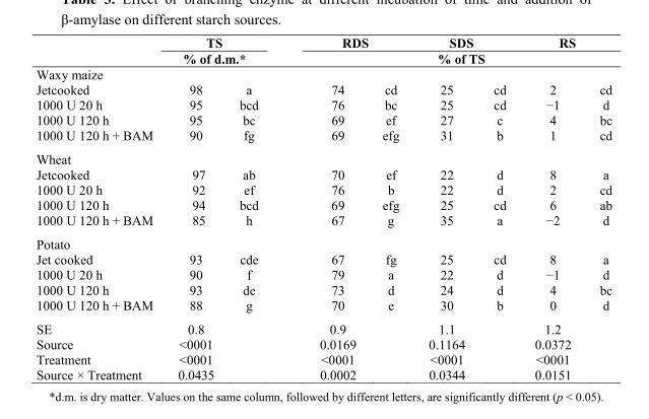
<table><thead><tr><td rowspan="2"></td><td rowspan="2" colspan="2">TS % of d.m.*</td><td colspan="2">RDS</td><td colspan="2">SDS</td><td colspan="2">RS</td></tr><tr><td colspan="6">% of TS</td></tr><tr><td colspan="9">Waxy maize</td></tr><tr><td>Jetcooked</td><td>98</td><td>a</td><td>74</td><td>cd</td><td>25</td><td>cd</td><td>2</td><td>cd</td></tr></thead><tbody><tr><td>1000 U 20 h</td><td>95</td><td>bcd</td><td>76</td><td>bc</td><td>25</td><td>cd</td><td>−1</td><td>d</td></tr><tr><td>1000 U 120 h</td><td>95</td><td>bc</td><td>69</td><td>ef</td><td>27</td><td>c</td><td>4</td><td>bc</td></tr><tr><td>1000 U 120 h + BAM</td><td>90</td><td>fg</td><td>69</td><td>efg</td><td>31</td><td>b</td><td>1</td><td>cd</td></tr><tr><td colspan="9">Wheat</td></tr><tr><td>Jetcooked</td><td>97</td><td>ab</td><td>70</td><td>ef</td><td>22</td><td>d</td><td>8</td><td>a</td></tr><tr><td>1000 U 20 h</td><td>92</td><td>ef</td><td>76</td><td>b</td><td>22</td><td>d</td><td>2</td><td>cd</td></tr><tr><td>1000 U 120 h</td><td>94</td><td>bcd</td><td>69</td><td>efg</td><td>25</td><td>cd</td><td>6</td><td>ab</td></tr><tr><td>1000 U 120 h + BAM</td><td>85</td><td>h</td><td>67</td><td>g</td><td>35</td><td>a</td><td>−2</td><td>d</td></tr><tr><td colspan="9">Potato</td></tr><tr><td>Jet cooked</td><td>93</td><td>cde</td><td>67</td><td>fg</td><td>25</td><td>cd</td><td>8</td><td>a</td></tr><tr><td>1000 U 20 h</td><td>90</td><td>f</td><td>79</td><td>a</td><td>22</td><td>d</td><td>−1</td><td>d</td></tr><tr><td>1000 U 120 h</td><td>93</td><td>de</td><td>73</td><td>d</td><td>24</td><td>d</td><td>4</td><td>bc</td></tr><tr><td>1000 U 120 h + BAM</td><td>88</td><td>g</td><td>70</td><td>e</td><td>30</td><td>b</td><td>0</td><td>d</td></tr><tr><td>SE</td><td>0.8</td><td></td><td>0.9</td><td></td><td>1.1</td><td></td><td>1.2</td><td></td></tr><tr><td>Source</td><td>&lt;0001</td><td></td><td>0.0169</td><td></td><td>0.1164</td><td></td><td>0.0372</td><td></td></tr><tr><td>Treatment</td><td>&lt;0001</td><td></td><td>&lt;0001</td><td></td><td>&lt;0001</td><td></td><td>&lt;0001</td><td></td></tr><tr><td>Source × Treatment</td><td>0.0435</td><td></td><td>0.0002</td><td></td><td>0.0344</td><td></td><td>0.0151</td><td></td></tr></tbody></table>